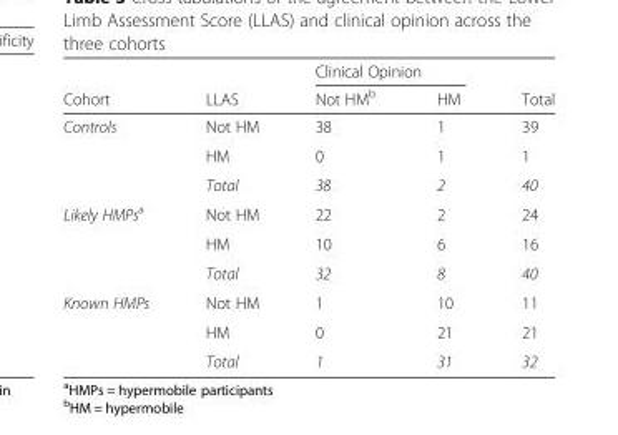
<table><thead><tr><td rowspan="2">Cohort</td><td rowspan="2">LLAS</td><td colspan="2">Clinical Opinion</td><td rowspan="2">Total</td></tr><tr><td>Not HM<sup>b</sup></td><td>HM</td></tr></thead><tbody><tr><td rowspan="3">Controls</td><td>Not HM</td><td>38</td><td>1</td><td>39</td></tr><tr><td>HM</td><td>0</td><td>1</td><td>1</td></tr><tr><td>Total</td><td>38</td><td>2</td><td>40</td></tr><tr><td rowspan="3">Likely HMPs<sup>a</sup></td><td>Not HM</td><td>22</td><td>2</td><td>24</td></tr><tr><td>HM</td><td>10</td><td>6</td><td>16</td></tr><tr><td>Total</td><td>32</td><td>8</td><td>40</td></tr><tr><td rowspan="3">Known HMPs</td><td>Not HM</td><td>1</td><td>10</td><td>11</td></tr><tr><td>HM</td><td>0</td><td>21</td><td>21</td></tr><tr><td>Total</td><td>1</td><td>31</td><td>32</td></tr></tbody></table>